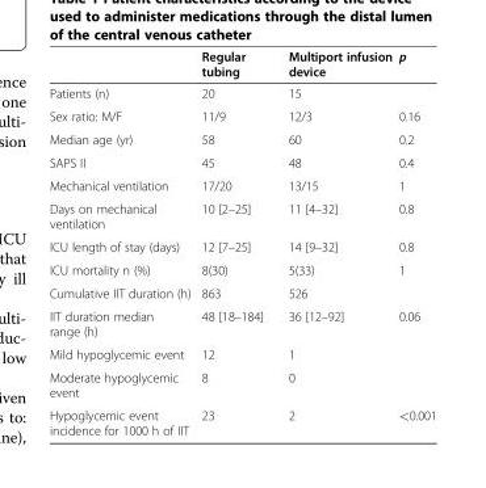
<table><thead><tr><td></td><td>Regular tubing</td><td>Multiport infusion device</td><td>p</td></tr></thead><tbody><tr><td>Patients (n)</td><td>20</td><td>15</td><td></td></tr><tr><td>Sex ratio: M/F</td><td>11/9</td><td>12/3</td><td>0.16</td></tr><tr><td>Median age (yr)</td><td>58</td><td>60</td><td>0.2</td></tr><tr><td>SAPS II</td><td>45</td><td>48</td><td>0.4</td></tr><tr><td>Mechanical ventilation</td><td>17/20</td><td>13/15</td><td>1</td></tr><tr><td>Days on mechanical ventilation</td><td>10 [2–25]</td><td>11 [4–32]</td><td>0.8</td></tr><tr><td>ICU length of stay (days)</td><td>12 [7–25]</td><td>14 [9–32]</td><td>0.8</td></tr><tr><td>ICU mortality n (%)</td><td>8(30)</td><td>5(33)</td><td>1</td></tr><tr><td>Cumulative IIT duration (h)</td><td>863</td><td>526</td><td></td></tr><tr><td>IIT duration median range (h)</td><td>48 [18–184]</td><td>36 [12–92]</td><td>0.06</td></tr><tr><td>Mild hypoglycemic event</td><td>12</td><td>1</td><td></td></tr><tr><td>Moderate hypoglycemic event</td><td>8</td><td>0</td><td></td></tr><tr><td>Hypoglycemic event incidence for 1000 h of IIT</td><td>23</td><td>2</td><td>&lt;0.001</td></tr></tbody></table>